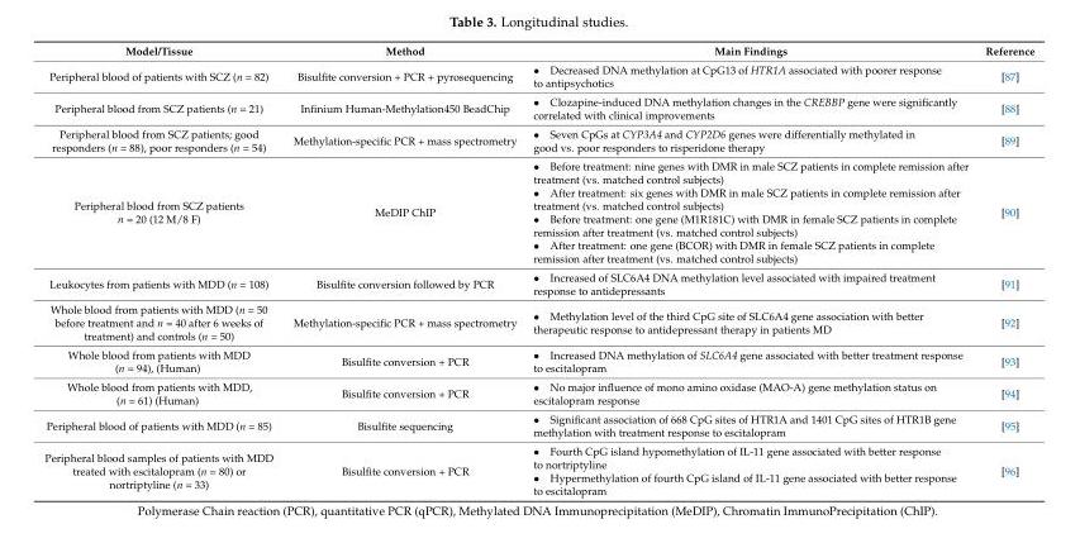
<table><thead><tr><td>Model/Tissue</td><td>Method</td><td>Main Findings</td><td>Reference</td></tr></thead><tbody><tr><td>Peripheral blood of patients with SCZ (n = 82)</td><td>Bisulfite conversion + PCR + pyrosequencing</td><td>• Decreased DNA methylation at CpG13 of HTR1A associated with poorer response to antipsychotics</td><td>[87]</td></tr><tr><td>Peripheral blood from SCZ patients (n = 21)</td><td>Infinium Human-Methylation450 BeadChip</td><td>• Clozapine-induced DNA methylation changes in the CREBBP gene were significantly correlated with clinical improvements</td><td>[88]</td></tr><tr><td>Peripheral blood from SCZ patients; good responders (n = 88), poor responders (n = 54)</td><td>Methylation-specific PCR + mass spectrometry</td><td>• Seven CpGs at CYP3A4 and CYP2D6 genes were differentially methylated in good vs. poor responders to risperidone therapy</td><td>[89]</td></tr><tr><td>Peripheral blood from SCZ patients n = 20 (12 M/8 F)</td><td>MeDIP ChIP</td><td>• Before treatment: nine genes with DMR in male SCZ patients in complete remission after treatment (vs. matched control subjects) • After treatment: six genes with DMR in male SCZ patients in complete remission after treatment (vs. matched control subjects) • Before treatment: one gene (M1R181C) with DMR in female SCZ patients in complete remission after treatment (vs. matched control subjects) • After treatment: one gene (BCOR) with DMR in female SCZ patients in complete remission after treatment (vs. matched control subjects)</td><td>[90]</td></tr><tr><td>Leukocytes from patients with MDD (n = 108)</td><td>Bisulfite conversion followed by PCR</td><td>• Increased of SLC6A4 DNA methylation level associated with impaired treatment response to antidepressants</td><td>[91]</td></tr><tr><td>Whole blood from patients with MDD (n = 50 before treatment and n = 40 after 6 weeks of treatment) and controls (n = 50)</td><td>Methylation-specific PCR + mass spectrometry</td><td>• Methylation level of the third CpG site of SLC6A4 gene association with better therapeutic response to antidepressant therapy in patients MD</td><td>[92]</td></tr><tr><td>Whole blood from patients with MDD (n = 94), (Human)</td><td>Bisulfite conversion + PCR</td><td>• Increased DNA methylation of SLC6A4 gene associated with better treatment response to escitalopram</td><td>[93]</td></tr><tr><td>Whole blood from patients with MDD, (n = 61) (Human)</td><td>Bisulfite conversion + PCR</td><td>• No major influence of mono amino oxidase (MAO-A) gene methylation status on escitalopram response</td><td>[94]</td></tr><tr><td>Peripheral blood of patients with MDD (n = 85)</td><td>Bisulfite sequencing</td><td>• Significant association of 668 CpG sites of HTR1A and 1401 CpG sites of HTR1B gene methylation with treatment response to escitalopram</td><td>[95]</td></tr><tr><td>Peripheral blood samples of patients with MDD treated with escitalopram (n = 80) or nortriptyline (n = 33)</td><td>Bisulfite conversion + PCR</td><td>• Fourth CpG island hypomethylation of IL-11 gene associated with better response to nortriptyline • Hypermethylation of fourth CpG island of IL-11 gene associated with better response to escitalopram</td><td>[96]</td></tr></tbody></table>